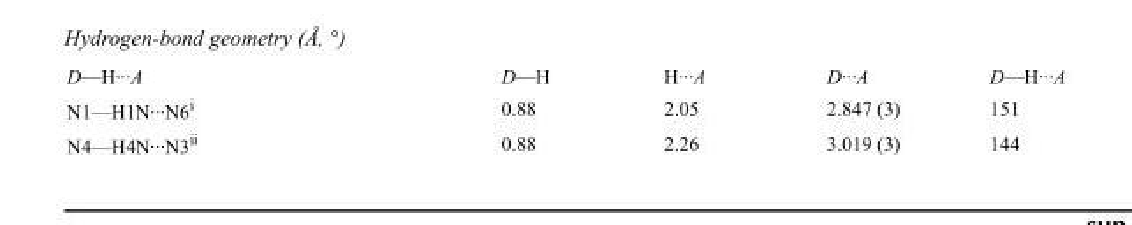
<table><tbody><tr><td>D—H···A</td><td>D—H</td><td>H···A</td><td>D···A</td><td>D—H···A</td></tr><tr><td>N1—H1N···N6<sup>i</sup></td><td>0.88</td><td>2.05</td><td>2.847 (3)</td><td>151</td></tr><tr><td>N4—H4N···N3<sup>ii</sup></td><td>0.88</td><td>2.26</td><td>3.019 (3)</td><td>144</td></tr></tbody></table>